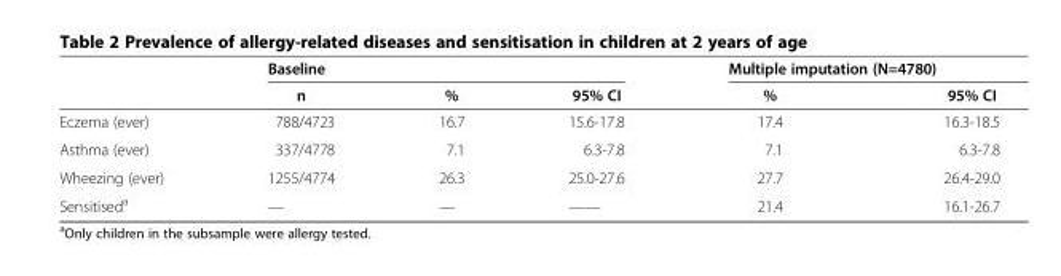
<table><thead><tr><td rowspan="2"></td><td colspan="3">Baseline</td><td colspan="2">Multiple imputation (N=4780)</td></tr><tr><td>n</td><td>%</td><td>95% CI</td><td>%</td><td>95% CI</td></tr></thead><tbody><tr><td>Eczema (ever)</td><td>788/4723</td><td>16.7</td><td>15.6-17.8</td><td>17.4</td><td>16.3-18.5</td></tr><tr><td>Asthma (ever)</td><td>337/4778</td><td>7.1</td><td>6.3-7.8</td><td>7.1</td><td>6.3-7.8</td></tr><tr><td>Wheezing (ever)</td><td>1255/4774</td><td>26.3</td><td>25.0-27.6</td><td>27.7</td><td>26.4-29.0</td></tr><tr><td>Sensitised<sup>a</sup></td><td>—</td><td>—</td><td>——</td><td>21.4</td><td>16.1-26.7</td></tr></tbody></table>